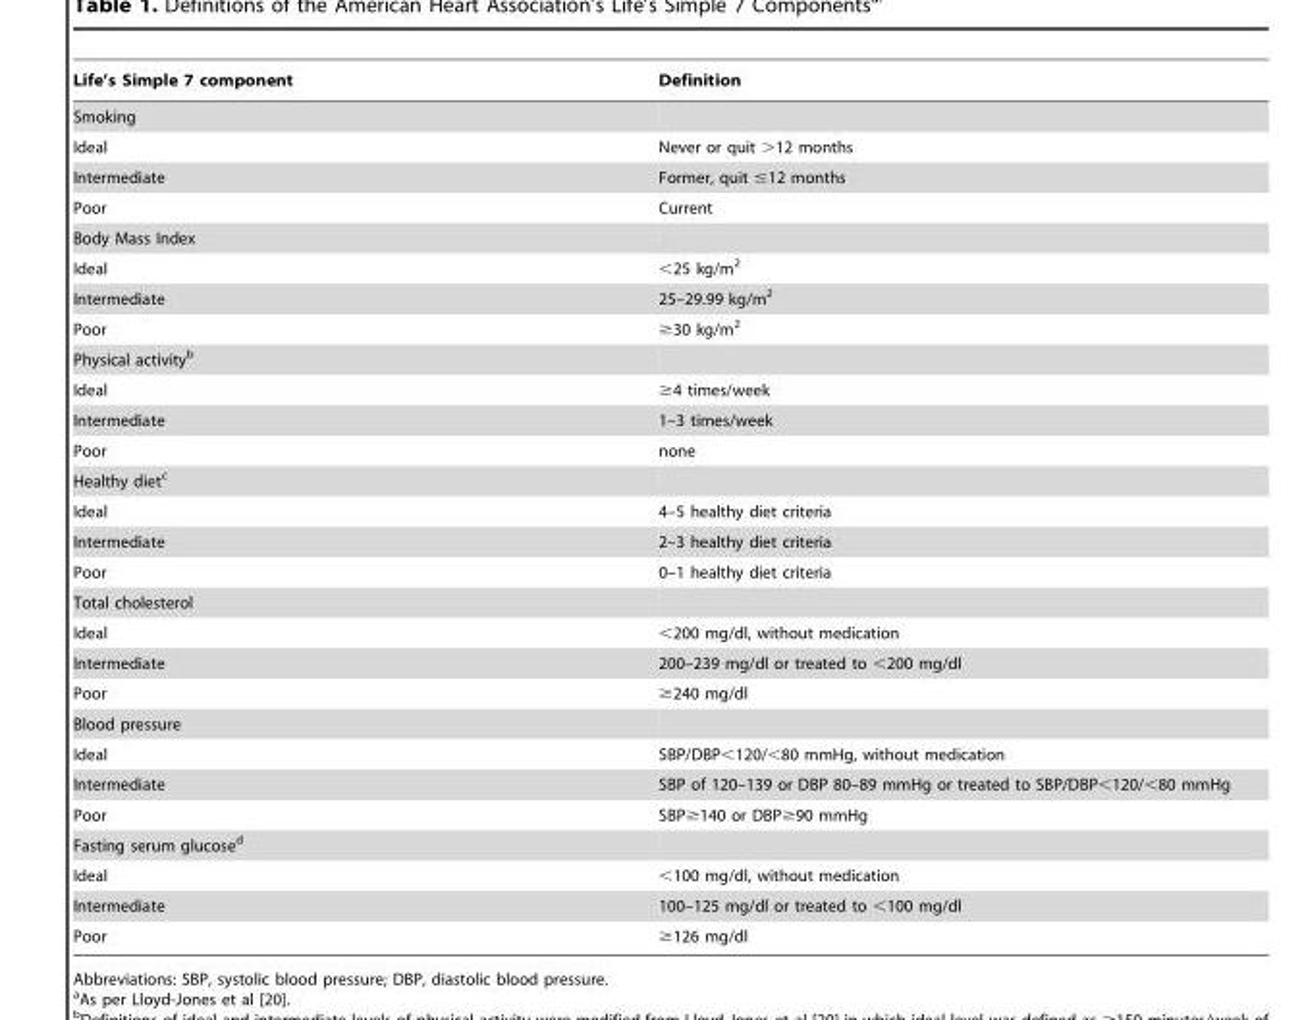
<table><thead><tr><td>Life’s Simple 7 component</td><td>Definition</td></tr></thead><tbody><tr><td colspan="2">Smoking</td></tr><tr><td>Ideal</td><td>Never or quit &gt;12 months</td></tr><tr><td>Intermediate</td><td>Former, quit ≤12 months</td></tr><tr><td>Poor</td><td>Current</td></tr><tr><td colspan="2">Body Mass Index</td></tr><tr><td>Ideal</td><td>&lt;25 kg/m<sup>2</sup></td></tr><tr><td>Intermediate</td><td>25–29.99 kg/m<sup>2</sup></td></tr><tr><td>Poor</td><td>≥30 kg/m<sup>2</sup></td></tr><tr><td colspan="2">Physical activity<sup>b</sup></td></tr><tr><td>Ideal</td><td>≥4 times/week</td></tr><tr><td>Intermediate</td><td>1–3 times/week</td></tr><tr><td>Poor</td><td>none</td></tr><tr><td colspan="2">Healthy diet<sup>c</sup></td></tr><tr><td>Ideal</td><td>4–5 healthy diet criteria</td></tr><tr><td>Intermediate</td><td>2–3 healthy diet criteria</td></tr><tr><td>Poor</td><td>0–1 healthy diet criteria</td></tr><tr><td colspan="2">Total cholesterol</td></tr><tr><td>Ideal</td><td>&lt;200 mg/dl, without medication</td></tr><tr><td>Intermediate</td><td>200–239 mg/dl or treated to &lt;200 mg/dl</td></tr><tr><td>Poor</td><td>≥240 mg/dl</td></tr><tr><td colspan="2">Blood pressure</td></tr><tr><td>Ideal</td><td>SBP/DBP&lt;120/&lt;80 mmHg, without medication</td></tr><tr><td>Intermediate</td><td>SBP of 120–139 or DBP 80–89 mmHg or treated to SBP/DBP&lt;120/&lt;80 mmHg</td></tr><tr><td>Poor</td><td>SBP≥140 or DBP≥90 mmHg</td></tr><tr><td colspan="2">Fasting serum glucose<sup>d</sup></td></tr><tr><td>Ideal</td><td>&lt;100 mg/dl, without medication</td></tr><tr><td>Intermediate</td><td>100–125 mg/dl or treated to &lt;100 mg/dl</td></tr><tr><td>Poor</td><td>≥126 mg/dl</td></tr></tbody></table>